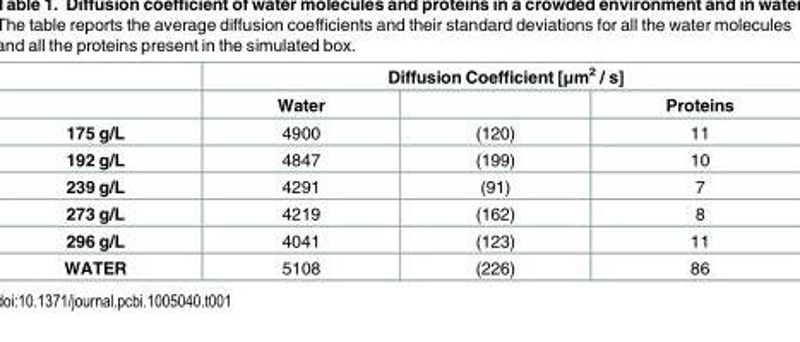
<table><thead><tr><td rowspan="2"></td><td colspan="3">Diffusion Coefficient [μm<sup>2</sup> / s]</td></tr><tr><td>Water</td><td></td><td>Proteins</td></tr></thead><tbody><tr><td>175 g/L</td><td>4900</td><td>(120)</td><td>11</td></tr><tr><td>192 g/L</td><td>4847</td><td>(199)</td><td>10</td></tr><tr><td>239 g/L</td><td>4291</td><td>(91)</td><td>7</td></tr><tr><td>273 g/L</td><td>4219</td><td>(162)</td><td>8</td></tr><tr><td>296 g/L</td><td>4041</td><td>(123)</td><td>11</td></tr><tr><td>WATER</td><td>5108</td><td>(226)</td><td>86</td></tr></tbody></table>